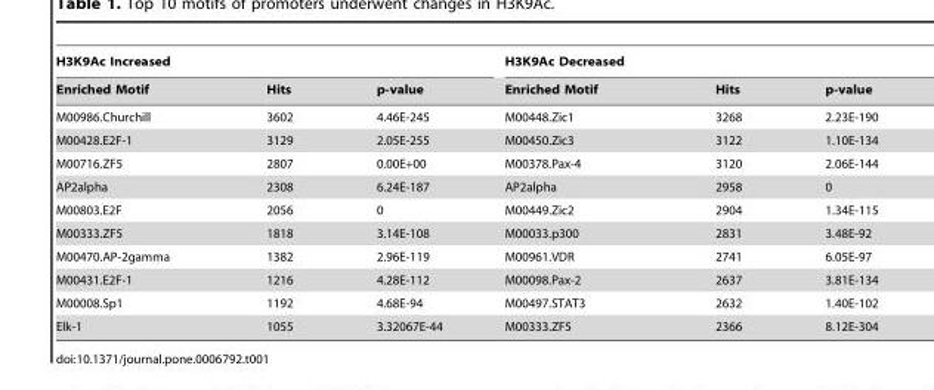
<table><thead><tr><td colspan="3">H3K9Ac Increased</td><td colspan="3">H3K9Ac Decreased</td></tr><tr><td>Enriched Motif</td><td>Hits</td><td>p-value</td><td>Enriched Motif</td><td>Hits</td><td>p-value</td></tr></thead><tbody><tr><td>M00986.Churchill</td><td>3602</td><td>4.46E-245</td><td>M00448.Zic1</td><td>3268</td><td>2.23E-190</td></tr><tr><td>M00428.E2F-1</td><td>3129</td><td>2.05E-255</td><td>M00450.Zic3</td><td>3122</td><td>1.10E-134</td></tr><tr><td>M00716.ZF5</td><td>2807</td><td>0.00E+00</td><td>M00378.Pax-4</td><td>3120</td><td>2.06E-144</td></tr><tr><td>AP2alpha</td><td>2308</td><td>6.24E-187</td><td>AP2alpha</td><td>2958</td><td>0</td></tr><tr><td>M00803.E2F</td><td>2056</td><td>0</td><td>M00449.Zic2</td><td>2904</td><td>1.34E-115</td></tr><tr><td>M00333.ZF5</td><td>1818</td><td>3.14E-108</td><td>M00033.p300</td><td>2831</td><td>3.48E-92</td></tr><tr><td>M00470.AP-2gamma</td><td>1382</td><td>2.96E-119</td><td>M00961.VDR</td><td>2741</td><td>6.05E-97</td></tr><tr><td>M00431.E2F-1</td><td>1216</td><td>4.28E-112</td><td>M00098.Pax-2</td><td>2637</td><td>3.81E-134</td></tr><tr><td>M00008.Sp1</td><td>1192</td><td>4.68E-94</td><td>M00497.STAT3</td><td>2632</td><td>1.40E-102</td></tr><tr><td>Elk-1</td><td>1055</td><td>3.32067E-44</td><td>M00333.ZF5</td><td>2366</td><td>8.12E-304</td></tr></tbody></table>